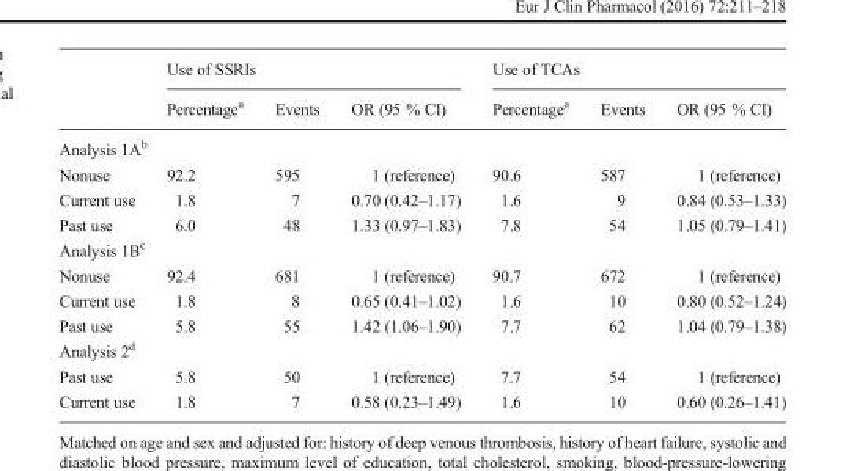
<table><thead><tr><td rowspan="2"></td><td colspan="3">Use of SSRIs</td><td colspan="3">Use of TCAs</td></tr><tr><td>Percentage<sup>a</sup></td><td>Events</td><td>OR (95 % CI)</td><td>Percentage<sup>a</sup></td><td>Events</td><td>OR (95 % CI)</td></tr></thead><tbody><tr><td colspan="7">Analysis 1A<sup>b</sup></td></tr><tr><td>Nonuse</td><td>92.2</td><td>595</td><td>1 (reference)</td><td>90.6</td><td>587</td><td>1 (reference)</td></tr><tr><td>Current use</td><td>1.8</td><td>7</td><td>0.70 (0.42–1.17)</td><td>1.6</td><td>9</td><td>0.84 (0.53–1.33)</td></tr><tr><td>Past use</td><td>6.0</td><td>48</td><td>1.33 (0.97–1.83)</td><td>7.8</td><td>54</td><td>1.05 (0.79–1.41)</td></tr><tr><td colspan="7">Analysis 1B<sup>c</sup></td></tr><tr><td>Nonuse</td><td>92.4</td><td>681</td><td>1 (reference)</td><td>90.7</td><td>672</td><td>1 (reference)</td></tr><tr><td>Current use</td><td>1.8</td><td>8</td><td>0.65 (0.41–1.02)</td><td>1.6</td><td>10</td><td>0.80 (0.52–1.24)</td></tr><tr><td>Past use</td><td>5.8</td><td>55</td><td>1.42 (1.06–1.90)</td><td>7.7</td><td>62</td><td>1.04 (0.79–1.38)</td></tr><tr><td colspan="7">Analysis 2<sup>d</sup></td></tr><tr><td>Past use</td><td>5.8</td><td>50</td><td>1 (reference)</td><td>7.7</td><td>54</td><td>1 (reference)</td></tr><tr><td>Current use</td><td>1.8</td><td>7</td><td>0.58 (0.23–1.49)</td><td>1.6</td><td>10</td><td>0.60 (0.26–1.41)</td></tr></tbody></table>